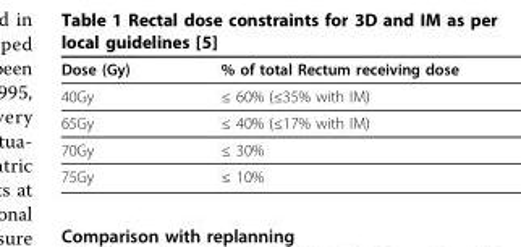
<table><thead><tr><td>Dose (Gy)</td><td>% of total Rectum receiving dose</td></tr></thead><tbody><tr><td>40Gy</td><td>≤ 60% (≤35% with IM)</td></tr><tr><td>65Gy</td><td>≤ 40% (≤17% with IM)</td></tr><tr><td>70Gy</td><td>≤ 30%</td></tr><tr><td>75Gy</td><td>≤ 10%</td></tr></tbody></table>